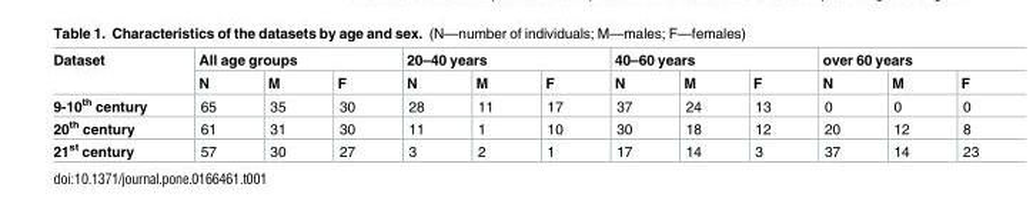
<table><thead><tr><td rowspan="2">Dataset</td><td colspan="3">All age groups</td><td colspan="3">20–40 years</td><td colspan="3">40–60 years</td><td colspan="3">over 60 years</td></tr><tr><td>N</td><td>M</td><td>F</td><td>N</td><td>M</td><td>F</td><td>N</td><td>M</td><td>F</td><td>N</td><td>M</td><td>F</td></tr></thead><tbody><tr><td>9-10<sup>th</sup> century</td><td>65</td><td>35</td><td>30</td><td>28</td><td>11</td><td>17</td><td>37</td><td>24</td><td>13</td><td>0</td><td>0</td><td>0</td></tr><tr><td>20<sup>th</sup> century</td><td>61</td><td>31</td><td>30</td><td>11</td><td>1</td><td>10</td><td>30</td><td>18</td><td>12</td><td>20</td><td>12</td><td>8</td></tr><tr><td>21<sup>st</sup> century</td><td>57</td><td>30</td><td>27</td><td>3</td><td>2</td><td>1</td><td>17</td><td>14</td><td>3</td><td>37</td><td>14</td><td>23</td></tr></tbody></table>